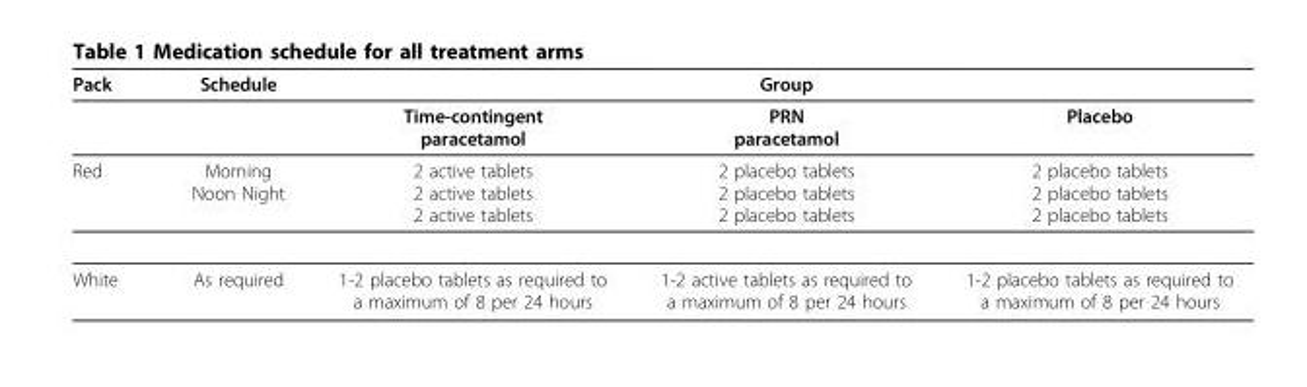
<table><thead><tr><td rowspan="2">Pack</td><td rowspan="2">Schedule</td><td colspan="3">Group</td></tr><tr><td>Time-contingent paracetamol</td><td>PRN paracetamol</td><td>Placebo</td></tr></thead><tbody><tr><td>Red</td><td>Morning Noon Night</td><td>2 active tablets 2 active tablets 2 active tablets</td><td>2 placebo tablets 2 placebo tablets 2 placebo tablets</td><td>2 placebo tablets 2 placebo tablets 2 placebo tablets</td></tr><tr><td>White</td><td>As required</td><td>1-2 placebo tablets as required to a maximum of 8 per 24 hours</td><td>1-2 active tablets as required to a maximum of 8 per 24 hours</td><td>1-2 placebo tablets as required to a maximum of 8 per 24 hours</td></tr></tbody></table>